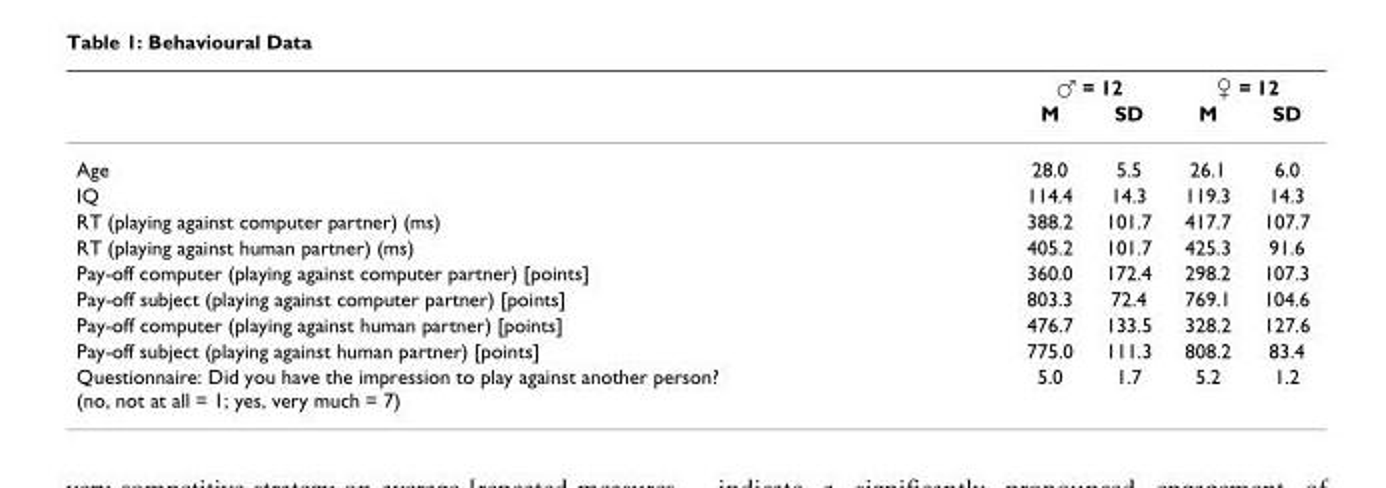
<table><thead><tr><td rowspan="2"></td><td colspan="2">♂ = 12</td><td colspan="2">♀ = 12</td></tr><tr><td>M</td><td>SD</td><td>M</td><td>SD</td></tr></thead><tbody><tr><td>Age</td><td>28.0</td><td>5.5</td><td>26.1</td><td>6.0</td></tr><tr><td>IQ</td><td>114.4</td><td>14.3</td><td>119.3</td><td>14.3</td></tr><tr><td>RT (playing against computer partner) (ms)</td><td>388.2</td><td>101.7</td><td>417.7</td><td>107.7</td></tr><tr><td>RT (playing against human partner) (ms)</td><td>405.2</td><td>101.7</td><td>425.3</td><td>91.6</td></tr><tr><td>Pay-off computer (playing against computer partner) [points]</td><td>360.0</td><td>172.4</td><td>298.2</td><td>107.3</td></tr><tr><td>Pay-off subject (playing against computer partner) [points]</td><td>803.3</td><td>72.4</td><td>769.1</td><td>104.6</td></tr><tr><td>Pay-off computer (playing against human partner) [points]</td><td>476.7</td><td>133.5</td><td>328.2</td><td>127.6</td></tr><tr><td>Pay-off subject (playing against human partner) [points]</td><td>775.0</td><td>111.3</td><td>808.2</td><td>83.4</td></tr><tr><td>Questionnaire: Did you have the impression to play against another person? (no, not at all = 1; yes, very much = 7)</td><td>5.0</td><td>1.7</td><td>5.2</td><td>1.2</td></tr></tbody></table>